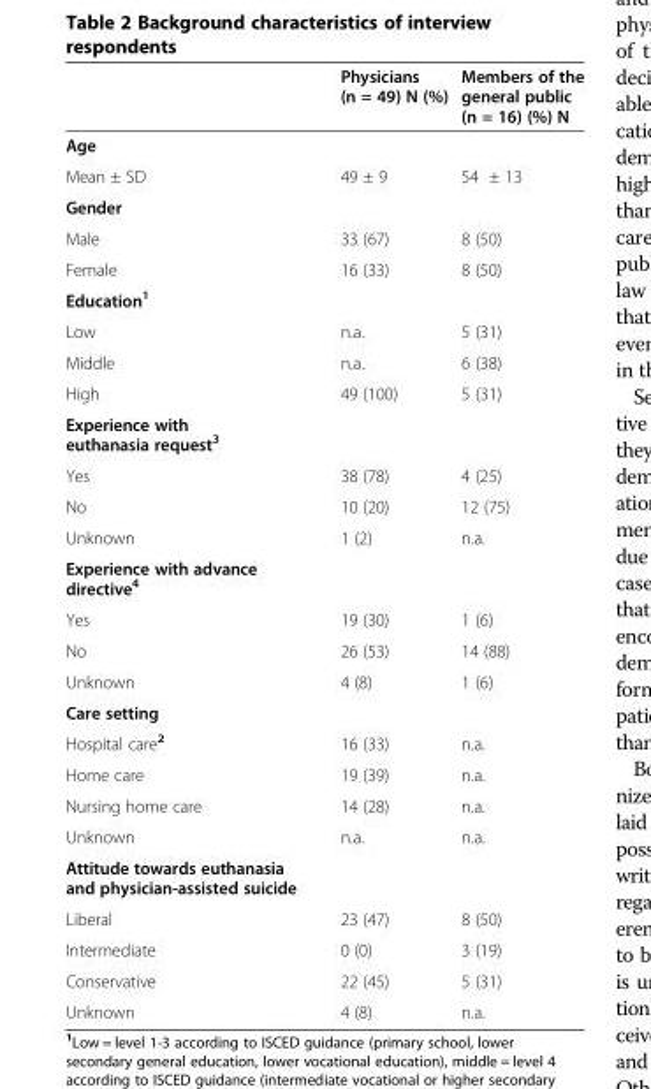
<table><thead><tr><td></td><td>Physicians (n = 49) N (%)</td><td>Members of the general public (n = 16) (%) N</td></tr></thead><tbody><tr><td colspan="3">Age</td></tr><tr><td>Mean ± SD</td><td>49 ± 9</td><td>54 ± 13</td></tr><tr><td colspan="3">Gender</td></tr><tr><td>Male</td><td>33 (67)</td><td>8 (50)</td></tr><tr><td>Female</td><td>16 (33)</td><td>8 (50)</td></tr><tr><td colspan="3">Education<sup>1</sup></td></tr><tr><td>Low</td><td>n.a.</td><td>5 (31)</td></tr><tr><td>Middle</td><td>n.a.</td><td>6 (38)</td></tr><tr><td>High</td><td>49 (100)</td><td>5 (31)</td></tr><tr><td colspan="3">Experience with euthanasia request<sup>3</sup></td></tr><tr><td>Yes</td><td>38 (78)</td><td>4 (25)</td></tr><tr><td>No</td><td>10 (20)</td><td>12 (75)</td></tr><tr><td>Unknown</td><td>1 (2)</td><td>n.a.</td></tr><tr><td colspan="3">Experience with advance directive<sup>4</sup></td></tr><tr><td>Yes</td><td>19 (30)</td><td>1 (6)</td></tr><tr><td>No</td><td>26 (53)</td><td>14 (88)</td></tr><tr><td>Unknown</td><td>4 (8)</td><td>1 (6)</td></tr><tr><td colspan="3">Care setting</td></tr><tr><td>Hospital care<sup>2</sup></td><td>16 (33)</td><td>n.a.</td></tr><tr><td>Home care</td><td>19 (39)</td><td>n.a.</td></tr><tr><td>Nursing home care</td><td>14 (28)</td><td>n.a.</td></tr><tr><td>Unknown</td><td>n.a.</td><td>n.a.</td></tr><tr><td colspan="3">Attitude towards euthanasia and physician-assisted suicide</td></tr><tr><td>Liberal</td><td>23 (47)</td><td>8 (50)</td></tr><tr><td>Intermediate</td><td>0 (0)</td><td>3 (19)</td></tr><tr><td>Conservative</td><td>22 (45)</td><td>5 (31)</td></tr><tr><td>Unknown</td><td>4 (8)</td><td>n.a.</td></tr></tbody></table>